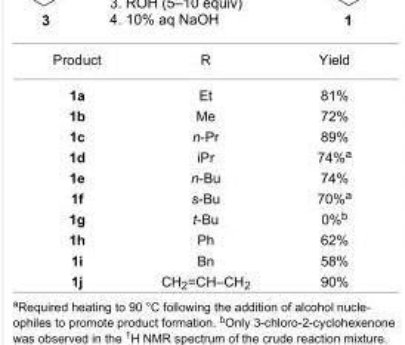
<table><tbody><tr><td>Product</td><td>R</td><td>Yield</td></tr><tr><td>1a</td><td>Et</td><td>81%</td></tr><tr><td>1b</td><td>Me</td><td>72%</td></tr><tr><td>1c</td><td>n-Pr</td><td>89%</td></tr><tr><td>1d</td><td>iPr</td><td>74%<sup>a</sup></td></tr><tr><td>1e</td><td>n-Bu</td><td>74%</td></tr><tr><td>1f</td><td>s-Bu</td><td>70%<sup>a</sup></td></tr><tr><td>1g</td><td>t-Bu</td><td>0%<sup>b</sup></td></tr><tr><td>1h</td><td>Ph</td><td>62%</td></tr><tr><td>1i</td><td>Bn</td><td>58%</td></tr><tr><td>1j</td><td>CH<sub>2</sub>=CH–CH<sub>2</sub></td><td>90%</td></tr></tbody></table>